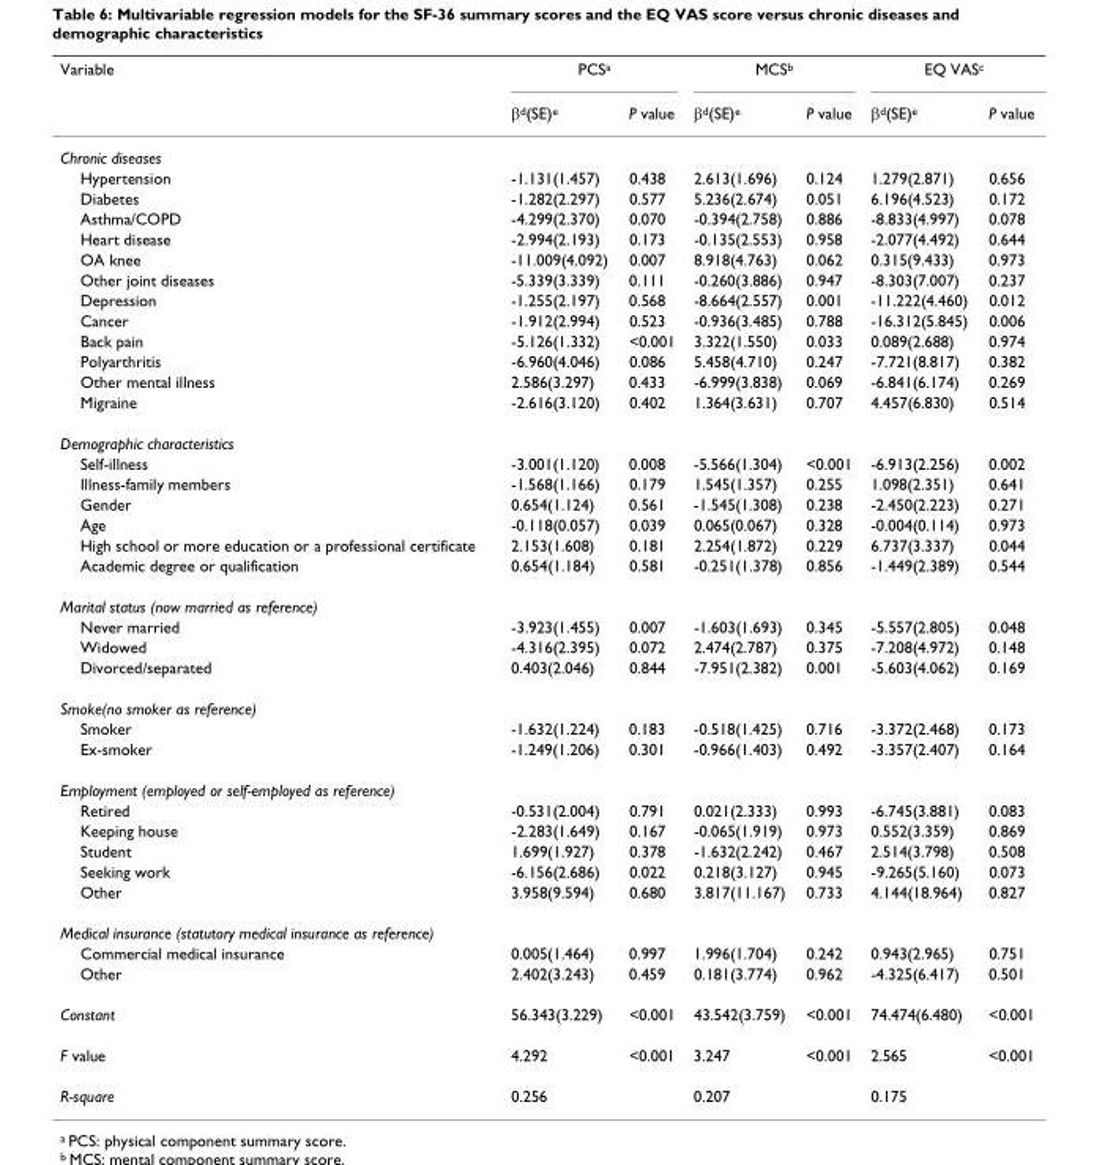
<table><thead><tr><td rowspan="2">Variable</td><td colspan="2">PCS<sup>a</sup></td><td colspan="2">MCS<sup>b</sup></td><td colspan="2">EQ VAS<sup>c</sup></td></tr><tr><td>β<sup>d</sup>(SE)<sup>e</sup></td><td>P value</td><td>β<sup>d</sup>(SE)<sup>e</sup></td><td>P value</td><td>β<sup>d</sup>(SE)<sup>e</sup></td><td>P value</td></tr></thead><tbody><tr><td colspan="7">Chronic diseases</td></tr><tr><td>Hypertension</td><td>-1.131(1.457)</td><td>0.438</td><td>2.613(1.696)</td><td>0.124</td><td>1.279(2.871)</td><td>0.656</td></tr><tr><td>Diabetes</td><td>-1.282(2.297)</td><td>0.577</td><td>5.236(2.674)</td><td>0.051</td><td>6.196(4.523)</td><td>0.172</td></tr><tr><td>Asthma/COPD</td><td>-4.299(2.370)</td><td>0.070</td><td>-0.394(2.758)</td><td>0.886</td><td>-8.833(4.997)</td><td>0.078</td></tr><tr><td>Heart disease</td><td>-2.994(2.193)</td><td>0.173</td><td>-0.135(2.553)</td><td>0.958</td><td>-2.077(4.492)</td><td>0.644</td></tr><tr><td>OA knee</td><td>-11.009(4.092)</td><td>0.007</td><td>8.918(4.763)</td><td>0.062</td><td>0.315(9.433)</td><td>0.973</td></tr><tr><td>Other joint diseases</td><td>-5.339(3.339)</td><td>0.111</td><td>-0.260(3.886)</td><td>0.947</td><td>-8.303(7.007)</td><td>0.237</td></tr><tr><td>Depression</td><td>-1.255(2.197)</td><td>0.568</td><td>-8.664(2.557)</td><td>0.001</td><td>-11.222(4.460)</td><td>0.012</td></tr><tr><td>Cancer</td><td>-1.912(2.994)</td><td>0.523</td><td>-0.936(3.485)</td><td>0.788</td><td>-16.312(5.845)</td><td>0.006</td></tr><tr><td>Back pain</td><td>-5.126(1.332)</td><td>&lt;0.001</td><td>3.322(1.550)</td><td>0.033</td><td>0.089(2.688)</td><td>0.974</td></tr><tr><td>Polyarthritis</td><td>-6.960(4.046)</td><td>0.086</td><td>5.458(4.710)</td><td>0.247</td><td>-7.721(8.817)</td><td>0.382</td></tr><tr><td>Other mental illness</td><td>2.586(3.297)</td><td>0.433</td><td>-6.999(3.838)</td><td>0.069</td><td>-6.841(6.174)</td><td>0.269</td></tr><tr><td>Migraine</td><td>-2.616(3.120)</td><td>0.402</td><td>1.364(3.631)</td><td>0.707</td><td>4.457(6.830)</td><td>0.514</td></tr><tr><td colspan="7">Demographic characteristics</td></tr><tr><td>Self-illness</td><td>-3.001(1.120)</td><td>0.008</td><td>-5.566(1.304)</td><td>&lt;0.001</td><td>-6.913(2.256)</td><td>0.002</td></tr><tr><td>Illness-family members</td><td>-1.568(1.166)</td><td>0.179</td><td>1.545(1.357)</td><td>0.255</td><td>1.098(2.351)</td><td>0.641</td></tr><tr><td>Gender</td><td>0.654(1.124)</td><td>0.561</td><td>-1.545(1.308)</td><td>0.238</td><td>-2.450(2.223)</td><td>0.271</td></tr><tr><td>Age</td><td>-0.118(0.057)</td><td>0.039</td><td>0.065(0.067)</td><td>0.328</td><td>-0.004(0.114)</td><td>0.973</td></tr><tr><td>High school or more education or a professional certificate</td><td>2.153(1.608)</td><td>0.181</td><td>2.254(1.872)</td><td>0.229</td><td>6.737(3.337)</td><td>0.044</td></tr><tr><td>Academic degree or qualification</td><td>0.654(1.184)</td><td>0.581</td><td>-0.251(1.378)</td><td>0.856</td><td>-1.449(2.389)</td><td>0.544</td></tr><tr><td colspan="7">Marital status (now married as reference)</td></tr><tr><td>Never married</td><td>-3.923(1.455)</td><td>0.007</td><td>-1.603(1.693)</td><td>0.345</td><td>-5.557(2.805)</td><td>0.048</td></tr><tr><td>Widowed</td><td>-4.316(2.395)</td><td>0.072</td><td>2.474(2.787)</td><td>0.375</td><td>-7.208(4.972)</td><td>0.148</td></tr><tr><td>Divorced/separated</td><td>0.403(2.046)</td><td>0.844</td><td>-7.951(2.382)</td><td>0.001</td><td>-5.603(4.062)</td><td>0.169</td></tr><tr><td colspan="7">Smoke(no smoker as reference)</td></tr><tr><td>Smoker</td><td>-1.632(1.224)</td><td>0.183</td><td>-0.518(1.425)</td><td>0.716</td><td>-3.372(2.468)</td><td>0.173</td></tr><tr><td>Ex-smoker</td><td>-1.249(1.206)</td><td>0.301</td><td>-0.966(1.403)</td><td>0.492</td><td>-3.357(2.407)</td><td>0.164</td></tr><tr><td colspan="7">Employment (employed or self-employed as reference)</td></tr><tr><td>Retired</td><td>-0.531(2.004)</td><td>0.791</td><td>0.021(2.333)</td><td>0.993</td><td>-6.745(3.881)</td><td>0.083</td></tr><tr><td>Keeping house</td><td>-2.283(1.649)</td><td>0.167</td><td>-0.065(1.919)</td><td>0.973</td><td>0.552(3.359)</td><td>0.869</td></tr><tr><td>Student</td><td>1.699(1.927)</td><td>0.378</td><td>-1.632(2.242)</td><td>0.467</td><td>2.514(3.798)</td><td>0.508</td></tr><tr><td>Seeking work</td><td>-6.156(2.686)</td><td>0.022</td><td>0.218(3.127)</td><td>0.945</td><td>-9.265(5.160)</td><td>0.073</td></tr><tr><td>Other</td><td>3.958(9.594)</td><td>0.680</td><td>3.817(11.167)</td><td>0.733</td><td>4.144(18.964)</td><td>0.827</td></tr><tr><td colspan="7">Medical insurance (statutory medical insurance as reference)</td></tr><tr><td>Commercial medical insurance</td><td>0.005(1.464)</td><td>0.997</td><td>1.996(1.704)</td><td>0.242</td><td>0.943(2.965)</td><td>0.751</td></tr><tr><td>Other</td><td>2.402(3.243)</td><td>0.459</td><td>0.181(3.774)</td><td>0.962</td><td>-4.325(6.417)</td><td>0.501</td></tr><tr><td>Constant</td><td>56.343(3.229)</td><td>&lt;0.001</td><td>43.542(3.759)</td><td>&lt;0.001</td><td>74.474(6.480)</td><td>&lt;0.001</td></tr><tr><td>F value</td><td>4.292</td><td>&lt;0.001</td><td>3.247</td><td>&lt;0.001</td><td>2.565</td><td>&lt;0.001</td></tr><tr><td>R-square</td><td>0.256</td><td></td><td>0.207</td><td></td><td>0.175</td><td></td></tr></tbody></table>